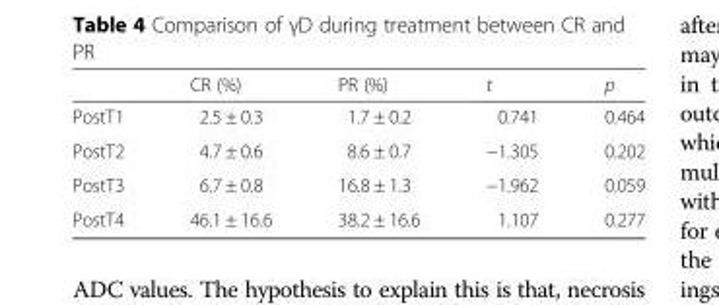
<table><thead><tr><td></td><td>CR (%)</td><td>PR (%)</td><td>t</td><td>p</td></tr></thead><tbody><tr><td>PostT1</td><td>2.5 ± 0.3</td><td>1.7 ± 0.2</td><td>0.741</td><td>0.464</td></tr><tr><td>PostT2</td><td>4.7 ± 0.6</td><td>8.6 ± 0.7</td><td>−1.305</td><td>0.202</td></tr><tr><td>PostT3</td><td>6.7 ± 0.8</td><td>16.8 ± 1.3</td><td>−1.962</td><td>0.059</td></tr><tr><td>PostT4</td><td>46.1 ± 16.6</td><td>38.2 ± 16.6</td><td>1.107</td><td>0.277</td></tr></tbody></table>